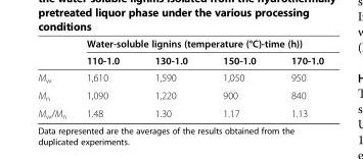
<table><thead><tr><td rowspan="2"></td><td colspan="4">Water-soluble lignins (temperature (°C)-time (h))</td></tr><tr><td>110-1.0</td><td>130-1.0</td><td>150-1.0</td><td>170-1.0</td></tr></thead><tbody><tr><td>M<sub>w</sub></td><td>1,610</td><td>1,590</td><td>1,050</td><td>950</td></tr><tr><td>M<sub>n</sub></td><td>1,090</td><td>1,220</td><td>900</td><td>840</td></tr><tr><td>M<sub>w</sub>/M<sub>n</sub></td><td>1.48</td><td>1.30</td><td>1.17</td><td>1.13</td></tr></tbody></table>